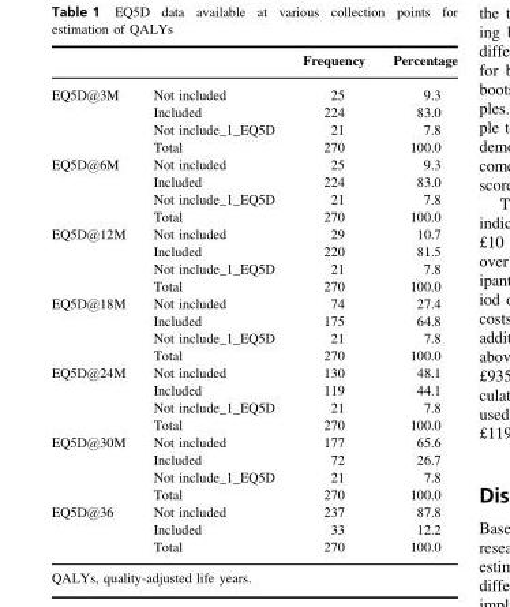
<table><thead><tr><td></td><td></td><td>Frequency</td><td>Percentage</td></tr></thead><tbody><tr><td rowspan="4">EQ5D@3M</td><td>Not included</td><td>25</td><td>9.3</td></tr><tr><td>Included</td><td>224</td><td>83.0</td></tr><tr><td>Not include_1_EQ5D</td><td>21</td><td>7.8</td></tr><tr><td>Total</td><td>270</td><td>100.0</td></tr><tr><td rowspan="4">EQ5D@6M</td><td>Not included</td><td>25</td><td>9.3</td></tr><tr><td>Included</td><td>224</td><td>83.0</td></tr><tr><td>Not include_1_EQ5D</td><td>21</td><td>7.8</td></tr><tr><td>Total</td><td>270</td><td>100.0</td></tr><tr><td rowspan="4">EQ5D@12M</td><td>Not included</td><td>29</td><td>10.7</td></tr><tr><td>Included</td><td>220</td><td>81.5</td></tr><tr><td>Not include_1_EQ5D</td><td>21</td><td>7.8</td></tr><tr><td>Total</td><td>270</td><td>100.0</td></tr><tr><td rowspan="4">EQ5D@18M</td><td>Not included</td><td>74</td><td>27.4</td></tr><tr><td>Included</td><td>175</td><td>64.8</td></tr><tr><td>Not include_1_EQ5D</td><td>21</td><td>7.8</td></tr><tr><td>Total</td><td>270</td><td>100.0</td></tr><tr><td rowspan="4">EQ5D@24M</td><td>Not included</td><td>130</td><td>48.1</td></tr><tr><td>Included</td><td>119</td><td>44.1</td></tr><tr><td>Not include_1_EQ5D</td><td>21</td><td>7.8</td></tr><tr><td>Total</td><td>270</td><td>100.0</td></tr><tr><td rowspan="4">EQ5D@30M</td><td>Not included</td><td>177</td><td>65.6</td></tr><tr><td>Included</td><td>72</td><td>26.7</td></tr><tr><td>Not include_1_EQ5D</td><td>21</td><td>7.8</td></tr><tr><td>Total</td><td>270</td><td>100.0</td></tr><tr><td rowspan="3">EQ5D@36</td><td>Not included</td><td>237</td><td>87.8</td></tr><tr><td>Included</td><td>33</td><td>12.2</td></tr><tr><td>Total</td><td>270</td><td>100.0</td></tr></tbody></table>